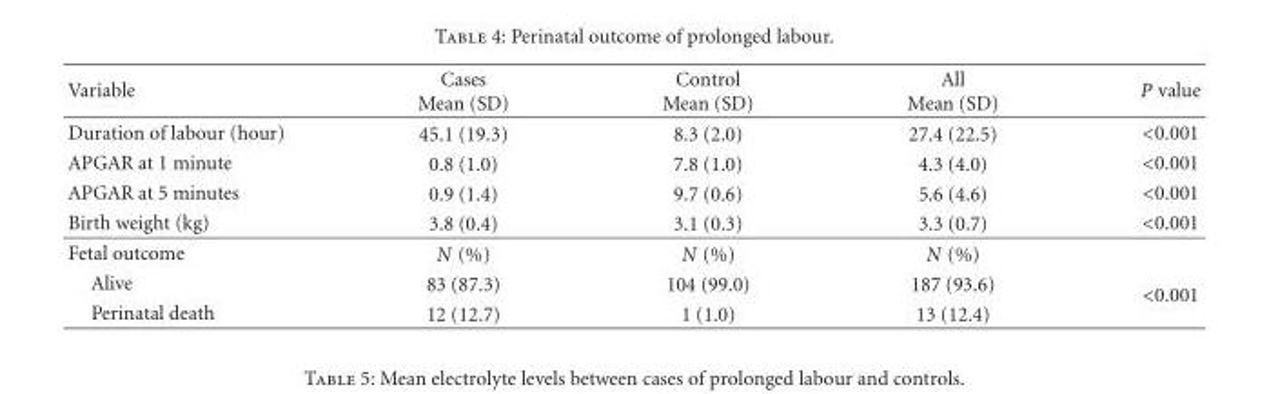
<table><thead><tr><td>Variable</td><td>Cases Mean (SD)</td><td>Control Mean (SD)</td><td>All Mean (SD)</td><td>P value</td></tr></thead><tbody><tr><td>Duration of labour (hour)</td><td>45.1 (19.3)</td><td>8.3 (2.0)</td><td>27.4 (22.5)</td><td>&lt;0.001</td></tr><tr><td>APGAR at 1 minute</td><td>0.8 (1.0)</td><td>7.8 (1.0)</td><td>4.3 (4.0)</td><td>&lt;0.001</td></tr><tr><td>APGAR at 5 minutes</td><td>0.9 (1.4)</td><td>9.7 (0.6)</td><td>5.6 (4.6)</td><td>&lt;0.001</td></tr><tr><td>Birth weight (kg)</td><td>3.8 (0.4)</td><td>3.1 (0.3)</td><td>3.3 (0.7)</td><td>&lt;0.001</td></tr><tr><td>Fetal outcome</td><td>N (%)</td><td>N (%)</td><td>N (%)</td><td></td></tr><tr><td>Alive</td><td>83 (87.3)</td><td>104 (99.0)</td><td>187 (93.6)</td><td rowspan="2">&lt;0.001</td></tr><tr><td>Perinatal death</td><td>12 (12.7)</td><td>1 (1.0)</td><td>13 (12.4)</td></tr></tbody></table>